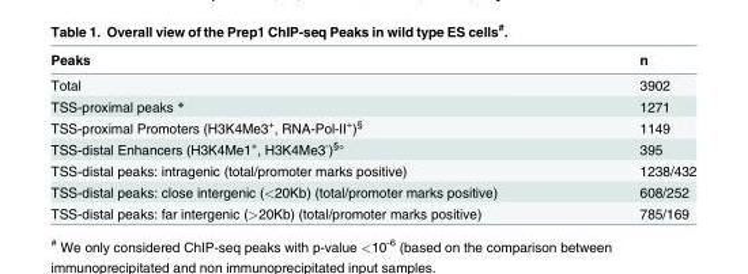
<table><thead><tr><td>Peaks</td><td>n</td></tr></thead><tbody><tr><td>Total</td><td>3902</td></tr><tr><td>TSS-proximal peaks *</td><td>1271</td></tr><tr><td>TSS-proximal Promoters (H3K4Me3<sup>+</sup>, RNA-Pol-II<sup>+</sup>)<sup>§</sup></td><td>1149</td></tr><tr><td>TSS-distal Enhancers (H3K4Me1<sup>+</sup>, H3K4Me3<sup>-</sup>)<sup>§</sup>°</td><td>395</td></tr><tr><td>TSS-distal peaks: intragenic (total/promoter marks positive)</td><td>1238/432</td></tr><tr><td>TSS-distal peaks: close intergenic (&lt;20Kb) (total/promoter marks positive)</td><td>608/252</td></tr><tr><td>TSS-distal peaks: far intergenic (&gt;20Kb) (total/promoter marks positive)</td><td>785/169</td></tr></tbody></table>